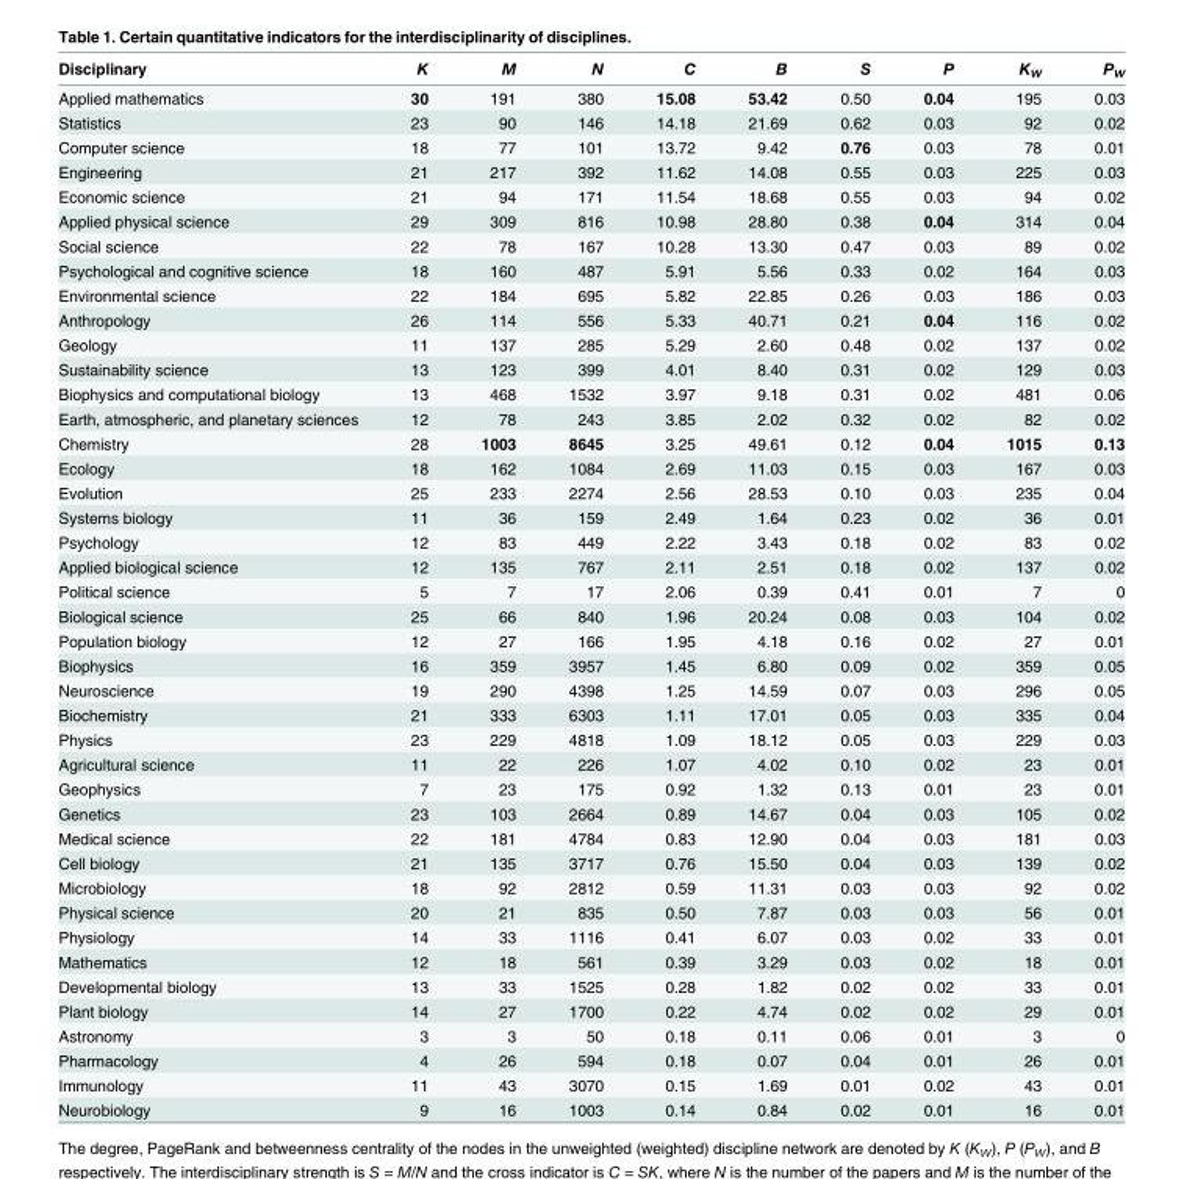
<table><thead><tr><td>Disciplinary</td><td>K</td><td>M</td><td>N</td><td>C</td><td>B</td><td>S</td><td>P</td><td>K<sub>W</sub></td><td>P<sub>W</sub></td></tr></thead><tbody><tr><td>Applied mathematics</td><td>30</td><td>191</td><td>380</td><td>15.08</td><td>53.42</td><td>0.50</td><td>0.04</td><td>195</td><td>0.03</td></tr><tr><td>Statistics</td><td>23</td><td>90</td><td>146</td><td>14.18</td><td>21.69</td><td>0.62</td><td>0.03</td><td>92</td><td>0.02</td></tr><tr><td>Computer science</td><td>18</td><td>77</td><td>101</td><td>13.72</td><td>9.42</td><td>0.76</td><td>0.03</td><td>78</td><td>0.01</td></tr><tr><td>Engineering</td><td>21</td><td>217</td><td>392</td><td>11.62</td><td>14.08</td><td>0.55</td><td>0.03</td><td>225</td><td>0.03</td></tr><tr><td>Economic science</td><td>21</td><td>94</td><td>171</td><td>11.54</td><td>18.68</td><td>0.55</td><td>0.03</td><td>94</td><td>0.02</td></tr><tr><td>Applied physical science</td><td>29</td><td>309</td><td>816</td><td>10.98</td><td>28.80</td><td>0.38</td><td>0.04</td><td>314</td><td>0.04</td></tr><tr><td>Social science</td><td>22</td><td>78</td><td>167</td><td>10.28</td><td>13.30</td><td>0.47</td><td>0.03</td><td>89</td><td>0.02</td></tr><tr><td>Psychological and cognitive science</td><td>18</td><td>160</td><td>487</td><td>5.91</td><td>5.56</td><td>0.33</td><td>0.02</td><td>164</td><td>0.03</td></tr><tr><td>Environmental science</td><td>22</td><td>184</td><td>695</td><td>5.82</td><td>22.85</td><td>0.26</td><td>0.03</td><td>186</td><td>0.03</td></tr><tr><td>Anthropology</td><td>26</td><td>114</td><td>556</td><td>5.33</td><td>40.71</td><td>0.21</td><td>0.04</td><td>116</td><td>0.02</td></tr><tr><td>Geology</td><td>11</td><td>137</td><td>285</td><td>5.29</td><td>2.60</td><td>0.48</td><td>0.02</td><td>137</td><td>0.02</td></tr><tr><td>Sustainability science</td><td>13</td><td>123</td><td>399</td><td>4.01</td><td>8.40</td><td>0.31</td><td>0.02</td><td>129</td><td>0.03</td></tr><tr><td>Biophysics and computational biology</td><td>13</td><td>468</td><td>1532</td><td>3.97</td><td>9.18</td><td>0.31</td><td>0.02</td><td>481</td><td>0.06</td></tr><tr><td>Earth, atmospheric, and planetary sciences</td><td>12</td><td>78</td><td>243</td><td>3.85</td><td>2.02</td><td>0.32</td><td>0.02</td><td>82</td><td>0.02</td></tr><tr><td>Chemistry</td><td>28</td><td>1003</td><td>8645</td><td>3.25</td><td>49.61</td><td>0.12</td><td>0.04</td><td>1015</td><td>0.13</td></tr><tr><td>Ecology</td><td>18</td><td>162</td><td>1084</td><td>2.69</td><td>11.03</td><td>0.15</td><td>0.03</td><td>167</td><td>0.03</td></tr><tr><td>Evolution</td><td>25</td><td>233</td><td>2274</td><td>2.56</td><td>28.53</td><td>0.10</td><td>0.03</td><td>235</td><td>0.04</td></tr><tr><td>Systems biology</td><td>11</td><td>36</td><td>159</td><td>2.49</td><td>1.64</td><td>0.23</td><td>0.02</td><td>36</td><td>0.01</td></tr><tr><td>Psychology</td><td>12</td><td>83</td><td>449</td><td>2.22</td><td>3.43</td><td>0.18</td><td>0.02</td><td>83</td><td>0.02</td></tr><tr><td>Applied biological science</td><td>12</td><td>135</td><td>767</td><td>2.11</td><td>2.51</td><td>0.18</td><td>0.02</td><td>137</td><td>0.02</td></tr><tr><td>Political science</td><td>5</td><td>7</td><td>17</td><td>2.06</td><td>0.39</td><td>0.41</td><td>0.01</td><td>7</td><td>0</td></tr><tr><td>Biological science</td><td>25</td><td>66</td><td>840</td><td>1.96</td><td>20.24</td><td>0.08</td><td>0.03</td><td>104</td><td>0.02</td></tr><tr><td>Population biology</td><td>12</td><td>27</td><td>166</td><td>1.95</td><td>4.18</td><td>0.16</td><td>0.02</td><td>27</td><td>0.01</td></tr><tr><td>Biophysics</td><td>16</td><td>359</td><td>3957</td><td>1.45</td><td>6.80</td><td>0.09</td><td>0.02</td><td>359</td><td>0.05</td></tr><tr><td>Neuroscience</td><td>19</td><td>290</td><td>4398</td><td>1.25</td><td>14.59</td><td>0.07</td><td>0.03</td><td>296</td><td>0.05</td></tr><tr><td>Biochemistry</td><td>21</td><td>333</td><td>6303</td><td>1.11</td><td>17.01</td><td>0.05</td><td>0.03</td><td>335</td><td>0.04</td></tr><tr><td>Physics</td><td>23</td><td>229</td><td>4818</td><td>1.09</td><td>18.12</td><td>0.05</td><td>0.03</td><td>229</td><td>0.03</td></tr><tr><td>Agricultural science</td><td>11</td><td>22</td><td>226</td><td>1.07</td><td>4.02</td><td>0.10</td><td>0.02</td><td>23</td><td>0.01</td></tr><tr><td>Geophysics</td><td>7</td><td>23</td><td>175</td><td>0.92</td><td>1.32</td><td>0.13</td><td>0.01</td><td>23</td><td>0.01</td></tr><tr><td>Genetics</td><td>23</td><td>103</td><td>2664</td><td>0.89</td><td>14.67</td><td>0.04</td><td>0.03</td><td>105</td><td>0.02</td></tr><tr><td>Medical science</td><td>22</td><td>181</td><td>4784</td><td>0.83</td><td>12.90</td><td>0.04</td><td>0.03</td><td>181</td><td>0.03</td></tr><tr><td>Cell biology</td><td>21</td><td>135</td><td>3717</td><td>0.76</td><td>15.50</td><td>0.04</td><td>0.03</td><td>139</td><td>0.02</td></tr><tr><td>Microbiology</td><td>18</td><td>92</td><td>2812</td><td>0.59</td><td>11.31</td><td>0.03</td><td>0.03</td><td>92</td><td>0.02</td></tr><tr><td>Physical science</td><td>20</td><td>21</td><td>835</td><td>0.50</td><td>7.87</td><td>0.03</td><td>0.03</td><td>56</td><td>0.01</td></tr><tr><td>Physiology</td><td>14</td><td>33</td><td>1116</td><td>0.41</td><td>6.07</td><td>0.03</td><td>0.02</td><td>33</td><td>0.01</td></tr><tr><td>Mathematics</td><td>12</td><td>18</td><td>561</td><td>0.39</td><td>3.29</td><td>0.03</td><td>0.02</td><td>18</td><td>0.01</td></tr><tr><td>Developmental biology</td><td>13</td><td>33</td><td>1525</td><td>0.28</td><td>1.82</td><td>0.02</td><td>0.02</td><td>33</td><td>0.01</td></tr><tr><td>Plant biology</td><td>14</td><td>27</td><td>1700</td><td>0.22</td><td>4.74</td><td>0.02</td><td>0.02</td><td>29</td><td>0.01</td></tr><tr><td>Astronomy</td><td>3</td><td>3</td><td>50</td><td>0.18</td><td>0.11</td><td>0.06</td><td>0.01</td><td>3</td><td>0</td></tr><tr><td>Pharmacology</td><td>4</td><td>26</td><td>594</td><td>0.18</td><td>0.07</td><td>0.04</td><td>0.01</td><td>26</td><td>0.01</td></tr><tr><td>Immunology</td><td>11</td><td>43</td><td>3070</td><td>0.15</td><td>1.69</td><td>0.01</td><td>0.02</td><td>43</td><td>0.01</td></tr><tr><td>Neurobiology</td><td>9</td><td>16</td><td>1003</td><td>0.14</td><td>0.84</td><td>0.02</td><td>0.01</td><td>16</td><td>0.01</td></tr></tbody></table>